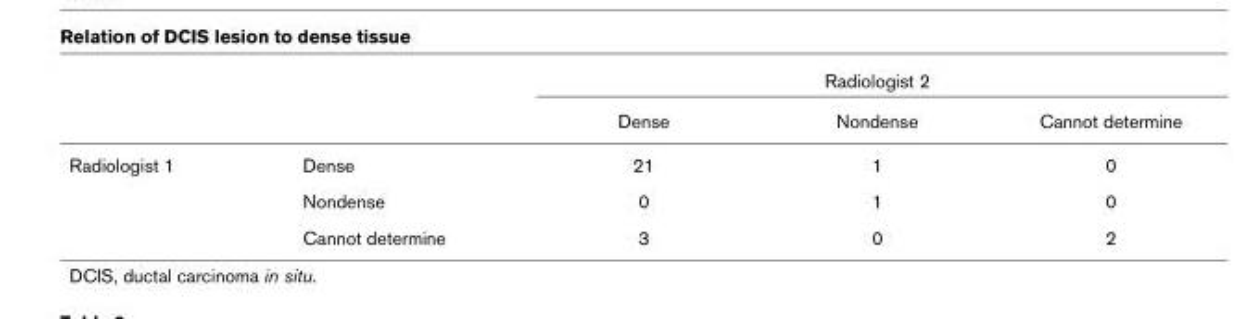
<table><thead><tr><td rowspan="2"></td><td rowspan="2"></td><td colspan="3">Radiologist 2</td></tr><tr><td>Dense</td><td>Nondense</td><td>Cannot determine</td></tr></thead><tbody><tr><td rowspan="3">Radiologist 1</td><td>Dense</td><td>21</td><td>1</td><td>0</td></tr><tr><td>Nondense</td><td>0</td><td>1</td><td>0</td></tr><tr><td>Cannot determine</td><td>3</td><td>0</td><td>2</td></tr></tbody></table>